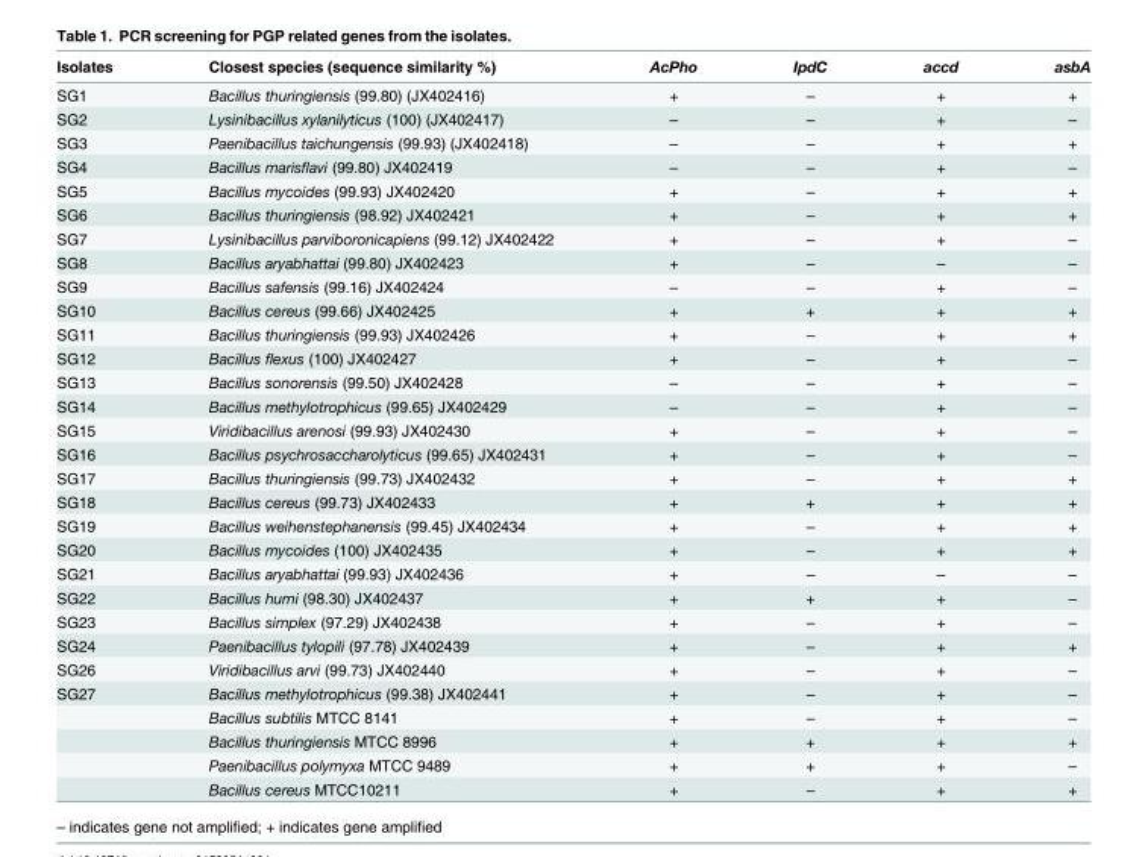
<table><thead><tr><td>Isolates</td><td>Closest species (sequence similarity %)</td><td>AcPho</td><td>IpdC</td><td>accd</td><td>asbA</td></tr></thead><tbody><tr><td>SG1</td><td>Bacillus thuringiensis (99.80) (JX402416)</td><td>+</td><td>–</td><td>+</td><td>+</td></tr><tr><td>SG2</td><td>Lysinibacillus xylanilyticus (100) (JX402417)</td><td>–</td><td>–</td><td>+</td><td>–</td></tr><tr><td>SG3</td><td>Paenibacillus taichungensis (99.93) (JX402418)</td><td>–</td><td>–</td><td>+</td><td>+</td></tr><tr><td>SG4</td><td>Bacillus marisflavi (99.80) JX402419</td><td>–</td><td>–</td><td>+</td><td>–</td></tr><tr><td>SG5</td><td>Bacillus mycoides (99.93) JX402420</td><td>+</td><td>–</td><td>+</td><td>+</td></tr><tr><td>SG6</td><td>Bacillus thuringiensis (98.92) JX402421</td><td>+</td><td>–</td><td>+</td><td>+</td></tr><tr><td>SG7</td><td>Lysinibacillus parviboronicapiens (99.12) JX402422</td><td>+</td><td>–</td><td>+</td><td>–</td></tr><tr><td>SG8</td><td>Bacillus aryabhattai (99.80) JX402423</td><td>+</td><td>–</td><td>–</td><td>–</td></tr><tr><td>SG9</td><td>Bacillus safensis (99.16) JX402424</td><td>–</td><td>–</td><td>+</td><td>–</td></tr><tr><td>SG10</td><td>Bacillus cereus (99.66) JX402425</td><td>+</td><td>+</td><td>+</td><td>+</td></tr><tr><td>SG11</td><td>Bacillus thuringiensis (99.93) JX402426</td><td>+</td><td>–</td><td>+</td><td>+</td></tr><tr><td>SG12</td><td>Bacillus flexus (100) JX402427</td><td>+</td><td>–</td><td>+</td><td>–</td></tr><tr><td>SG13</td><td>Bacillus sonorensis (99.50) JX402428</td><td>–</td><td>–</td><td>+</td><td>–</td></tr><tr><td>SG14</td><td>Bacillus methylotrophicus (99.65) JX402429</td><td>–</td><td>–</td><td>+</td><td>–</td></tr><tr><td>SG15</td><td>Viridibacillus arenosi (99.93) JX402430</td><td>+</td><td>–</td><td>+</td><td>–</td></tr><tr><td>SG16</td><td>Bacillus psychrosaccharolyticus (99.65) JX402431</td><td>+</td><td>–</td><td>+</td><td>–</td></tr><tr><td>SG17</td><td>Bacillus thuringiensis (99.73) JX402432</td><td>+</td><td>–</td><td>+</td><td>+</td></tr><tr><td>SG18</td><td>Bacillus cereus (99.73) JX402433</td><td>+</td><td>+</td><td>+</td><td>+</td></tr><tr><td>SG19</td><td>Bacillus weihenstephanensis (99.45) JX402434</td><td>+</td><td>–</td><td>+</td><td>+</td></tr><tr><td>SG20</td><td>Bacillus mycoides (100) JX402435</td><td>+</td><td>–</td><td>+</td><td>+</td></tr><tr><td>SG21</td><td>Bacillus aryabhattai (99.93) JX402436</td><td>+</td><td>–</td><td>–</td><td>–</td></tr><tr><td>SG22</td><td>Bacillus humi (98.30) JX402437</td><td>+</td><td>+</td><td>+</td><td>–</td></tr><tr><td>SG23</td><td>Bacillus simplex (97.29) JX402438</td><td>+</td><td>–</td><td>+</td><td>–</td></tr><tr><td>SG24</td><td>Paenibacillus tylopili (97.78) JX402439</td><td>+</td><td>–</td><td>+</td><td>+</td></tr><tr><td>SG26</td><td>Viridibacillus arvi (99.73) JX402440</td><td>+</td><td>–</td><td>+</td><td>–</td></tr><tr><td rowspan="5">SG27</td><td>Bacillus methylotrophicus (99.38) JX402441</td><td>+</td><td>–</td><td>+</td><td>–</td></tr><tr><td>Bacillus subtilis MTCC 8141</td><td>+</td><td>–</td><td>+</td><td>–</td></tr><tr><td>Bacillus thuringiensis MTCC 8996</td><td>+</td><td>+</td><td>+</td><td>+</td></tr><tr><td>Paenibacillus polymyxa MTCC 9489</td><td>+</td><td>+</td><td>+</td><td>–</td></tr><tr><td>Bacillus cereus MTCC10211</td><td>+</td><td>–</td><td>+</td><td>+</td></tr></tbody></table>